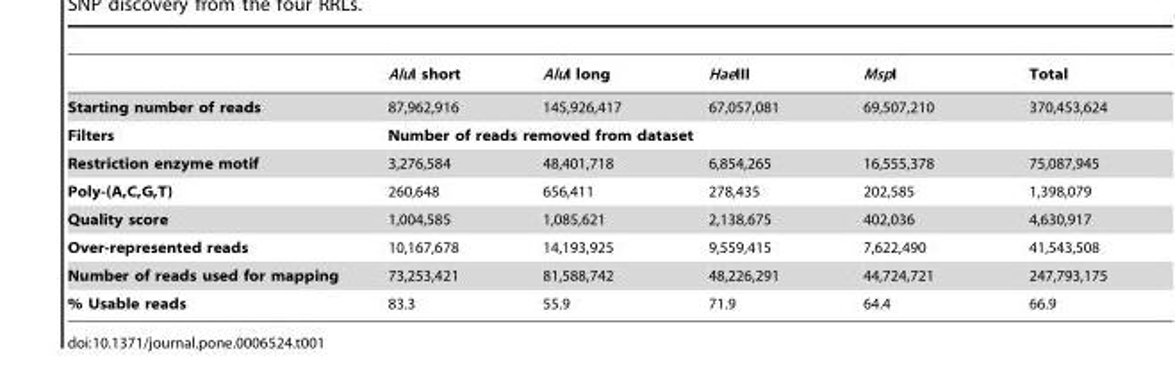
<table><thead><tr><td></td><td>AluI short</td><td>AluI long</td><td>HaeIII</td><td>MspI</td><td>Total</td></tr></thead><tbody><tr><td>Starting number of reads</td><td>87,962,916</td><td>145,926,417</td><td>67,057,081</td><td>69,507,210</td><td>370,453,624</td></tr><tr><td>Filters</td><td colspan="5">Number of reads removed from dataset</td></tr><tr><td>Restriction enzyme motif</td><td>3,276,584</td><td>48,401,718</td><td>6,854,265</td><td>16,555,378</td><td>75,087,945</td></tr><tr><td>Poly-(A,C,G,T)</td><td>260,648</td><td>656,411</td><td>278,435</td><td>202,585</td><td>1,398,079</td></tr><tr><td>Quality score</td><td>1,004,585</td><td>1,085,621</td><td>2,138,675</td><td>402,036</td><td>4,630,917</td></tr><tr><td>Over-represented reads</td><td>10,167,678</td><td>14,193,925</td><td>9,559,415</td><td>7,622,490</td><td>41,543,508</td></tr><tr><td>Number of reads used for mapping</td><td>73,253,421</td><td>81,588,742</td><td>48,226,291</td><td>44,724,721</td><td>247,793,175</td></tr><tr><td>% Usable reads</td><td>83.3</td><td>55.9</td><td>71.9</td><td>64.4</td><td>66.9</td></tr></tbody></table>